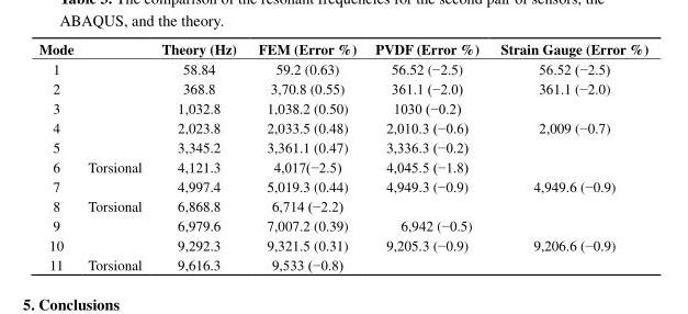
<table><thead><tr><td>Mode</td><td></td><td>Theory (Hz)</td><td>FEM (Error %)</td><td>PVDF (Error %)</td><td>Strain Gauge (Error %)</td></tr></thead><tbody><tr><td>1</td><td></td><td>58.84</td><td>59.2 (0.63)</td><td>56.52 (−2.5)</td><td>56.52 (−2.5)</td></tr><tr><td>2</td><td></td><td>368.8</td><td>3,70.8 (0.55)</td><td>361.1 (−2.0)</td><td>361.1 (−2.0)</td></tr><tr><td>3</td><td></td><td>1,032.8</td><td>1,038.2 (0.50)</td><td>1030 (−0.2)</td><td></td></tr><tr><td>4</td><td></td><td>2,023.8</td><td>2,033.5 (0.48)</td><td>2,010.3 (−0.6)</td><td>2,009 (−0.7)</td></tr><tr><td>5</td><td></td><td>3,345.2</td><td>3,361.1 (0.47)</td><td>3,336.3 (−0.2)</td><td></td></tr><tr><td>6</td><td>Torsional</td><td>4,121.3</td><td>4,017(−2.5)</td><td>4,045.5 (−1.8)</td><td></td></tr><tr><td>7</td><td></td><td>4,997.4</td><td>5,019.3 (0.44)</td><td>4,949.3 (−0.9)</td><td>4,949.6 (−0.9)</td></tr><tr><td>8</td><td>Torsional</td><td>6,868.8</td><td>6,714 (−2.2)</td><td></td><td></td></tr><tr><td>9</td><td></td><td>6,979.6</td><td>7,007.2 (0.39)</td><td>6,942 (−0.5)</td><td></td></tr><tr><td>10</td><td></td><td>9,292.3</td><td>9,321.5 (0.31)</td><td>9,205.3 (−0.9)</td><td>9,206.6 (−0.9)</td></tr><tr><td>11</td><td>Torsional</td><td>9,616.3</td><td>9,533 (−0.8)</td><td></td><td></td></tr></tbody></table>